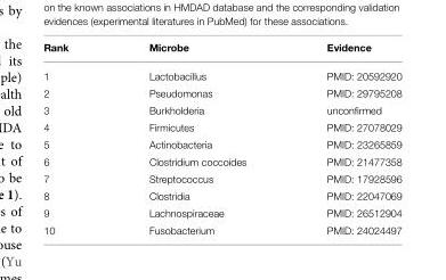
<table><thead><tr><td>Rank</td><td>Microbe</td><td>Evidence</td></tr></thead><tbody><tr><td>1</td><td>Lactobacillus</td><td>PMID: 20592920</td></tr><tr><td>2</td><td>Pseudomonas</td><td>PMID: 29795208</td></tr><tr><td>3</td><td>Burkholderia</td><td>unconfirmed</td></tr><tr><td>4</td><td>Firmicutes</td><td>PMID: 27078029</td></tr><tr><td>5</td><td>Actinobacteria</td><td>PMID: 23265859</td></tr><tr><td>6</td><td>Clostridium coccoides</td><td>PMID: 21477358</td></tr><tr><td>7</td><td>Streptococcus</td><td>PMID: 17928596</td></tr><tr><td>8</td><td>Clostridia</td><td>PMID: 22047069</td></tr><tr><td>9</td><td>Lachnospiraceae</td><td>PMID: 26512904</td></tr><tr><td>10</td><td>Fusobacterium</td><td>PMID: 24024497</td></tr></tbody></table>